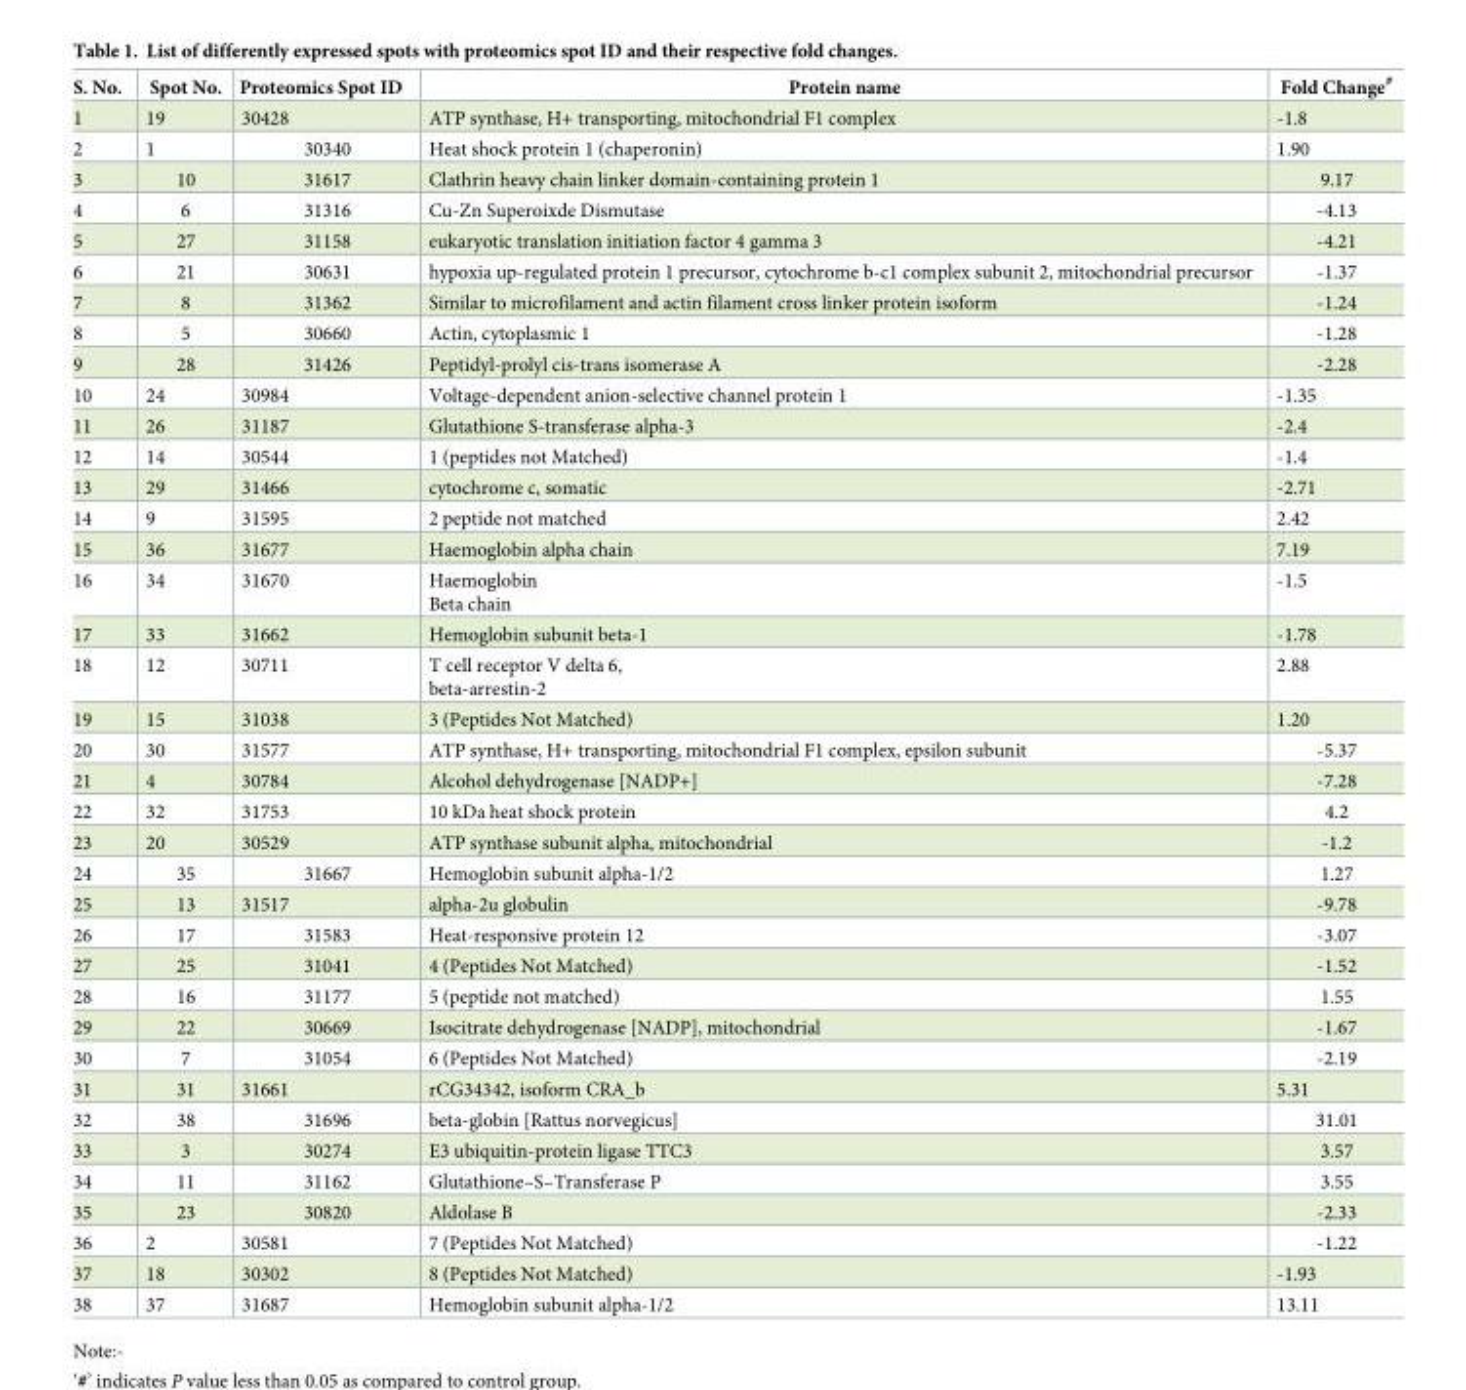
<table><thead><tr><td>S. No.</td><td>Spot No.</td><td>Proteomics Spot ID</td><td>Protein name</td><td>Fold Change<sup>#</sup></td></tr></thead><tbody><tr><td>1</td><td>19</td><td>30428</td><td>ATP synthase, H+ transporting, mitochondrial F1 complex</td><td>-1.8</td></tr><tr><td>2</td><td>1</td><td>30340</td><td>Heat shock protein 1 (chaperonin)</td><td>1.90</td></tr><tr><td>3</td><td>10</td><td>31617</td><td>Clathrin heavy chain linker domain-containing protein 1</td><td>9.17</td></tr><tr><td>4</td><td>6</td><td>31316</td><td>Cu-Zn Superoixde Dismutase</td><td>-4.13</td></tr><tr><td>5</td><td>27</td><td>31158</td><td>eukaryotic translation initiation factor 4 gamma 3</td><td>-4.21</td></tr><tr><td>6</td><td>21</td><td>30631</td><td>hypoxia up-regulated protein 1 precursor, cytochrome b-c1 complex subunit 2, mitochondrial precursor</td><td>-1.37</td></tr><tr><td>7</td><td>8</td><td>31362</td><td>Similar to microfilament and actin filament cross linker protein isoform</td><td>-1.24</td></tr><tr><td>8</td><td>5</td><td>30660</td><td>Actin, cytoplasmic 1</td><td>-1.28</td></tr><tr><td>9</td><td>28</td><td>31426</td><td>Peptidyl-prolyl cis-trans isomerase A</td><td>-2.28</td></tr><tr><td>10</td><td>24</td><td>30984</td><td>Voltage-dependent anion-selective channel protein 1</td><td>-1.35</td></tr><tr><td>11</td><td>26</td><td>31187</td><td>Glutathione S-transferase alpha-3</td><td>-2.4</td></tr><tr><td>12</td><td>14</td><td>30544</td><td>1 (peptides not Matched)</td><td>-1.4</td></tr><tr><td>13</td><td>29</td><td>31466</td><td>cytochrome c, somatic</td><td>-2.71</td></tr><tr><td>14</td><td>9</td><td>31595</td><td>2 peptide not matched</td><td>2.42</td></tr><tr><td>15</td><td>36</td><td>31677</td><td>Haemoglobin alpha chain</td><td>7.19</td></tr><tr><td>16</td><td>34</td><td>31670</td><td>Haemoglobin Beta chain</td><td>-1.5</td></tr><tr><td>17</td><td>33</td><td>31662</td><td>Hemoglobin subunit beta-1</td><td>-1.78</td></tr><tr><td>18</td><td>12</td><td>30711</td><td>T cell receptor V delta 6, beta-arrestin-2</td><td>2.88</td></tr><tr><td>19</td><td>15</td><td>31038</td><td>3 (Peptides Not Matched)</td><td>1.20</td></tr><tr><td>20</td><td>30</td><td>31577</td><td>ATP synthase, H+ transporting, mitochondrial F1 complex, epsilon subunit</td><td>-5.37</td></tr><tr><td>21</td><td>4</td><td>30784</td><td>Alcohol dehydrogenase [NADP+]</td><td>-7.28</td></tr><tr><td>22</td><td>32</td><td>31753</td><td>10 kDa heat shock protein</td><td>4.2</td></tr><tr><td>23</td><td>20</td><td>30529</td><td>ATP synthase subunit alpha, mitochondrial</td><td>-1.2</td></tr><tr><td>24</td><td>35</td><td>31667</td><td>Hemoglobin subunit alpha-1/2</td><td>1.27</td></tr><tr><td>25</td><td>13</td><td>31517</td><td>alpha-2u globulin</td><td>-9.78</td></tr><tr><td>26</td><td>17</td><td>31583</td><td>Heat-responsive protein 12</td><td>-3.07</td></tr><tr><td>27</td><td>25</td><td>31041</td><td>4 (Peptides Not Matched)</td><td>-1.52</td></tr><tr><td>28</td><td>16</td><td>31177</td><td>5 (peptide not matched)</td><td>1.55</td></tr><tr><td>29</td><td>22</td><td>30669</td><td>Isocitrate dehydrogenase [NADP], mitochondrial</td><td>-1.67</td></tr><tr><td>30</td><td>7</td><td>31054</td><td>6 (Peptides Not Matched)</td><td>-2.19</td></tr><tr><td>31</td><td>31</td><td>31661</td><td>rCG34342, isoform CRA_b</td><td>5.31</td></tr><tr><td>32</td><td>38</td><td>31696</td><td>beta-globin [Rattus norvegicus]</td><td>31.01</td></tr><tr><td>33</td><td>3</td><td>30274</td><td>E3 ubiquitin-protein ligase TTC3</td><td>3.57</td></tr><tr><td>34</td><td>11</td><td>31162</td><td>Glutathione–S–Transferase P</td><td>3.55</td></tr><tr><td>35</td><td>23</td><td>30820</td><td>Aldolase B</td><td>-2.33</td></tr><tr><td>36</td><td>2</td><td>30581</td><td>7 (Peptides Not Matched)</td><td>-1.22</td></tr><tr><td>37</td><td>18</td><td>30302</td><td>8 (Peptides Not Matched)</td><td>-1.93</td></tr><tr><td>38</td><td>37</td><td>31687</td><td>Hemoglobin subunit alpha-1/2</td><td>13.11</td></tr></tbody></table>